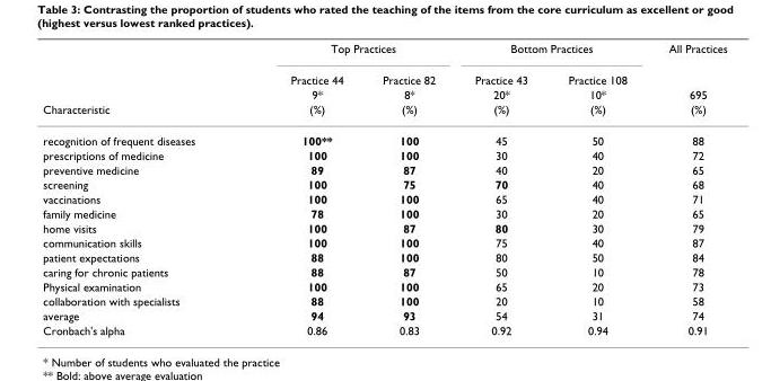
<table><thead><tr><td rowspan="4">Characteristic</td><td colspan="2">Top Practices</td><td colspan="2">Bottom Practices</td><td rowspan="4">All Practices 695 (%)</td></tr><tr><td rowspan="3">Practice 44 9* (%)</td><td rowspan="3">Practice 82 8* (%)</td><td rowspan="3">Practice 43 20* (%)</td><td rowspan="3">Practice 108 10* (%)</td></tr><tr></tr><tr></tr></thead><tbody><tr><td>recognition of frequent diseases</td><td>100**</td><td>100</td><td>45</td><td>50</td><td>88</td></tr><tr><td>prescriptions of medicine</td><td>100</td><td>100</td><td>30</td><td>40</td><td>72</td></tr><tr><td>preventive medicine</td><td>89</td><td>87</td><td>40</td><td>20</td><td>65</td></tr><tr><td>screening</td><td>100</td><td>75</td><td>70</td><td>40</td><td>68</td></tr><tr><td>vaccinations</td><td>100</td><td>100</td><td>65</td><td>40</td><td>71</td></tr><tr><td>family medicine</td><td>78</td><td>100</td><td>30</td><td>20</td><td>65</td></tr><tr><td>home visits</td><td>100</td><td>87</td><td>80</td><td>30</td><td>79</td></tr><tr><td>communication skills</td><td>100</td><td>100</td><td>75</td><td>40</td><td>87</td></tr><tr><td>patient expectations</td><td>88</td><td>100</td><td>80</td><td>50</td><td>84</td></tr><tr><td>caring for chronic patients</td><td>88</td><td>87</td><td>50</td><td>10</td><td>78</td></tr><tr><td>Physical examination</td><td>100</td><td>100</td><td>65</td><td>20</td><td>73</td></tr><tr><td>collaboration with specialists</td><td>88</td><td>100</td><td>20</td><td>10</td><td>58</td></tr><tr><td>average</td><td>94</td><td>93</td><td>54</td><td>31</td><td>74</td></tr><tr><td>Cronbach&#x27;s alpha</td><td>0.86</td><td>0.83</td><td>0.92</td><td>0.94</td><td>0.91</td></tr></tbody></table>